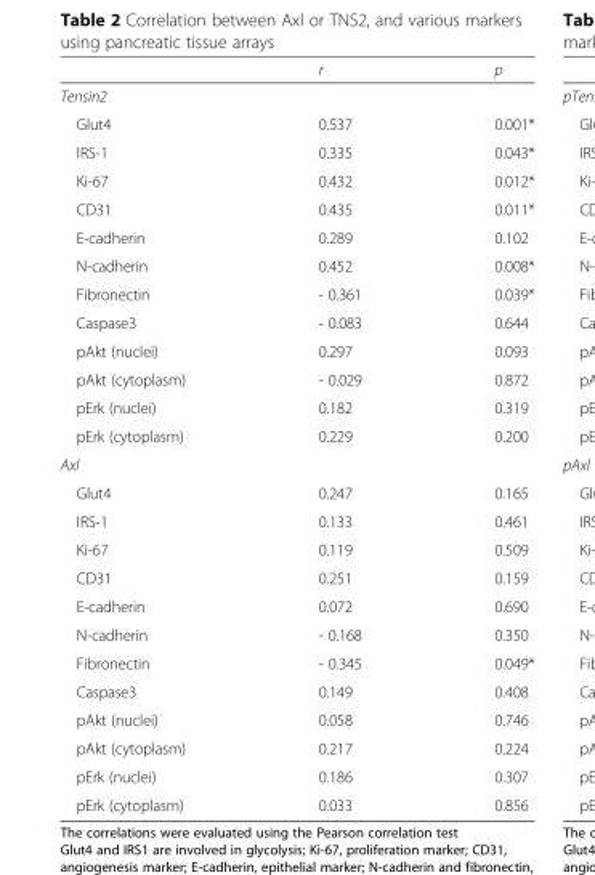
<table><thead><tr><td></td><td>r</td><td>p</td></tr></thead><tbody><tr><td colspan="3">Tensin2</td></tr><tr><td>Glut4</td><td>0.537</td><td>0.001*</td></tr><tr><td>IRS-1</td><td>0.335</td><td>0.043*</td></tr><tr><td>Ki-67</td><td>0.432</td><td>0.012*</td></tr><tr><td>CD31</td><td>0.435</td><td>0.011*</td></tr><tr><td>E-cadherin</td><td>0.289</td><td>0.102</td></tr><tr><td>N-cadherin</td><td>0.452</td><td>0.008*</td></tr><tr><td>Fibronectin</td><td>- 0.361</td><td>0.039*</td></tr><tr><td>Caspase3</td><td>- 0.083</td><td>0.644</td></tr><tr><td>pAkt (nuclei)</td><td>0.297</td><td>0.093</td></tr><tr><td>pAkt (cytoplasm)</td><td>- 0.029</td><td>0.872</td></tr><tr><td>pErk (nuclei)</td><td>0.182</td><td>0.319</td></tr><tr><td>pErk (cytoplasm)</td><td>0.229</td><td>0.200</td></tr><tr><td colspan="3">Axl</td></tr><tr><td>Glut4</td><td>0.247</td><td>0.165</td></tr><tr><td>IRS-1</td><td>0.133</td><td>0.461</td></tr><tr><td>Ki-67</td><td>0.119</td><td>0.509</td></tr><tr><td>CD31</td><td>0.251</td><td>0.159</td></tr><tr><td>E-cadherin</td><td>0.072</td><td>0.690</td></tr><tr><td>N-cadherin</td><td>- 0.168</td><td>0.350</td></tr><tr><td>Fibronectin</td><td>- 0.345</td><td>0.049*</td></tr><tr><td>Caspase3</td><td>0.149</td><td>0.408</td></tr><tr><td>pAkt (nuclei)</td><td>0.058</td><td>0.746</td></tr><tr><td>pAkt (cytoplasm)</td><td>0.217</td><td>0.224</td></tr><tr><td>pErk (nuclei)</td><td>0.186</td><td>0.307</td></tr><tr><td>pErk (cytoplasm)</td><td>0.033</td><td>0.856</td></tr></tbody></table>